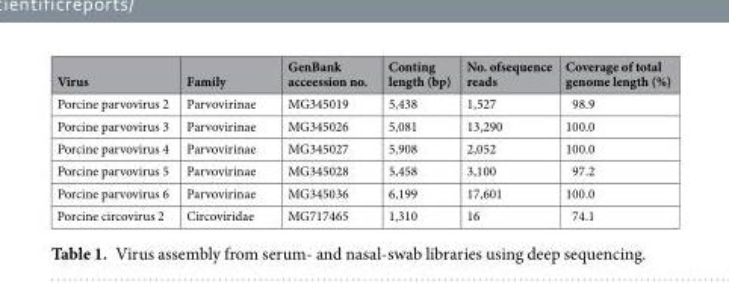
<table><thead><tr><td>Virus</td><td>Family</td><td>GenBank acceession no.</td><td>Conting length (bp)</td><td>No. ofsequence reads</td><td>Coverage of total genome length (%)</td></tr></thead><tbody><tr><td>Porcine parvovirus 2</td><td>Parvovirinae</td><td>MG345019</td><td>5,438</td><td>1,527</td><td>98.9</td></tr><tr><td>Porcine parvovirus 3</td><td>Parvovirinae</td><td>MG345026</td><td>5,081</td><td>13,290</td><td>100.0</td></tr><tr><td>Porcine parvovirus 4</td><td>Parvovirinae</td><td>MG345027</td><td>5,908</td><td>2,052</td><td>100.0</td></tr><tr><td>Porcine parvovirus 5</td><td>Parvovirinae</td><td>MG345028</td><td>5,458</td><td>3,100</td><td>97.2</td></tr><tr><td>Porcine parvovirus 6</td><td>Parvovirinae</td><td>MG345036</td><td>6,199</td><td>17,601</td><td>100.0</td></tr><tr><td>Porcine circovirus 2</td><td>Circoviridae</td><td>MG717465</td><td>1,310</td><td>16</td><td>74.1</td></tr></tbody></table>